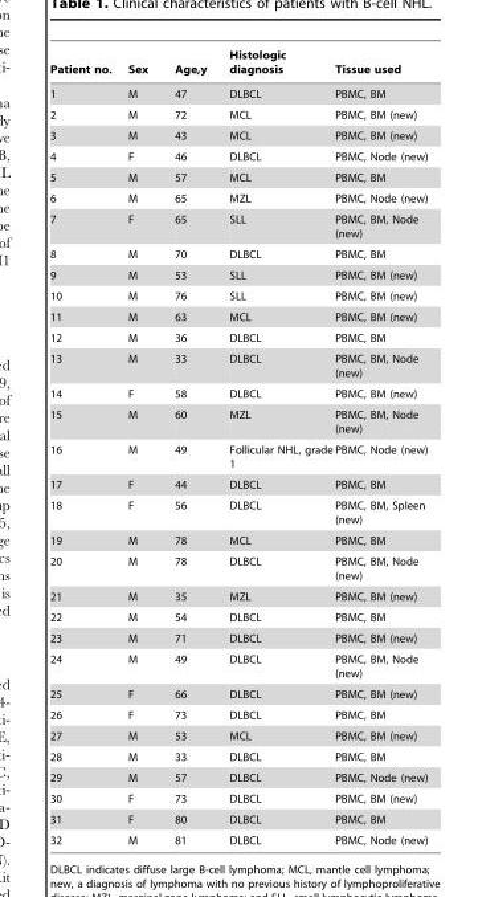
<table><thead><tr><td>Patient no.</td><td>Sex</td><td>Age,y</td><td>Histologic diagnosis</td><td>Tissue used</td></tr></thead><tbody><tr><td>1</td><td>M</td><td>47</td><td>DLBCL</td><td>PBMC, BM</td></tr><tr><td>2</td><td>M</td><td>72</td><td>MCL</td><td>PBMC, BM (new)</td></tr><tr><td>3</td><td>M</td><td>43</td><td>MCL</td><td>PBMC, BM (new)</td></tr><tr><td>4</td><td>F</td><td>46</td><td>DLBCL</td><td>PBMC, Node (new)</td></tr><tr><td>5</td><td>M</td><td>57</td><td>MCL</td><td>PBMC, BM</td></tr><tr><td>6</td><td>M</td><td>65</td><td>MZL</td><td>PBMC, Node (new)</td></tr><tr><td>7</td><td>F</td><td>65</td><td>SLL</td><td>PBMC, BM, Node (new)</td></tr><tr><td>8</td><td>M</td><td>70</td><td>DLBCL</td><td>PBMC, BM</td></tr><tr><td>9</td><td>M</td><td>53</td><td>SLL</td><td>PBMC, BM (new)</td></tr><tr><td>10</td><td>M</td><td>76</td><td>SLL</td><td>PBMC, BM (new)</td></tr><tr><td>11</td><td>M</td><td>63</td><td>MCL</td><td>PBMC, BM (new)</td></tr><tr><td>12</td><td>M</td><td>36</td><td>DLBCL</td><td>PBMC, BM</td></tr><tr><td>13</td><td>M</td><td>33</td><td>DLBCL</td><td>PBMC, BM, Node (new)</td></tr><tr><td>14</td><td>F</td><td>58</td><td>DLBCL</td><td>PBMC, BM (new)</td></tr><tr><td>15</td><td>M</td><td>60</td><td>MZL</td><td>PBMC, BM, Node (new)</td></tr><tr><td>16</td><td>M</td><td>49</td><td>Follicular NHL, grade 1</td><td>PBMC, Node (new)</td></tr><tr><td>17</td><td>F</td><td>44</td><td>DLBCL</td><td>PBMC, BM</td></tr><tr><td>18</td><td>F</td><td>56</td><td>DLBCL</td><td>PBMC, BM, Spleen (new)</td></tr><tr><td>19</td><td>M</td><td>78</td><td>MCL</td><td>PBMC, BM</td></tr><tr><td>20</td><td>M</td><td>78</td><td>DLBCL</td><td>PBMC, BM, Node (new)</td></tr><tr><td>21</td><td>M</td><td>35</td><td>MZL</td><td>PBMC, BM (new)</td></tr><tr><td>22</td><td>M</td><td>54</td><td>DLBCL</td><td>PBMC, BM</td></tr><tr><td>23</td><td>M</td><td>71</td><td>DLBCL</td><td>PBMC, BM (new)</td></tr><tr><td>24</td><td>M</td><td>49</td><td>DLBCL</td><td>PBMC, BM, Node (new)</td></tr><tr><td>25</td><td>F</td><td>66</td><td>DLBCL</td><td>PBMC, BM (new)</td></tr><tr><td>26</td><td>F</td><td>73</td><td>DLBCL</td><td>PBMC, BM</td></tr><tr><td>27</td><td>M</td><td>53</td><td>MCL</td><td>PBMC, BM (new)</td></tr><tr><td>28</td><td>M</td><td>33</td><td>DLBCL</td><td>PBMC, BM</td></tr><tr><td>29</td><td>M</td><td>57</td><td>DLBCL</td><td>PBMC, Node (new)</td></tr><tr><td>30</td><td>F</td><td>73</td><td>DLBCL</td><td>PBMC, BM (new)</td></tr><tr><td>31</td><td>F</td><td>80</td><td>DLBCL</td><td>PBMC, BM</td></tr><tr><td>32</td><td>M</td><td>81</td><td>DLBCL</td><td>PBMC, Node (new)</td></tr></tbody></table>